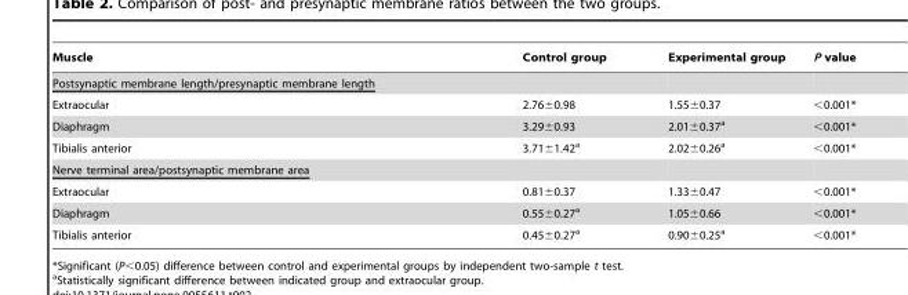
<table><thead><tr><td>Muscle</td><td>Control group</td><td>Experimental group</td><td>P value</td></tr></thead><tbody><tr><td colspan="4">Postsynaptic membrane length/presynaptic membrane length</td></tr><tr><td>Extraocular</td><td>2.76±0.98</td><td>1.55±0.37</td><td>&lt;0.001*</td></tr><tr><td>Diaphragm</td><td>3.29±0.93</td><td>2.01±0.37<sup>a</sup></td><td>&lt;0.001*</td></tr><tr><td>Tibialis anterior</td><td>3.71±1.42<sup>a</sup></td><td>2.02±0.26<sup>a</sup></td><td>&lt;0.001*</td></tr><tr><td colspan="4">Nerve terminal area/postsynaptic membrane area</td></tr><tr><td>Extraocular</td><td>0.81±0.37</td><td>1.33±0.47</td><td>&lt;0.001*</td></tr><tr><td>Diaphragm</td><td>0.55±0.27<sup>a</sup></td><td>1.05±0.66</td><td>&lt;0.001*</td></tr><tr><td>Tibialis anterior</td><td>0.45±0.27<sup>a</sup></td><td>0.90±0.25<sup>a</sup></td><td>&lt;0.001*</td></tr></tbody></table>